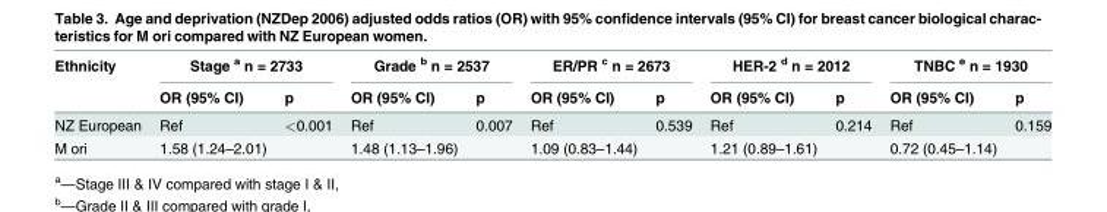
<table><thead><tr><td rowspan="2">Ethnicity</td><td colspan="2">Stage <sup>a</sup> n = 2733</td><td colspan="2">Grade <sup>b</sup> n = 2537</td><td colspan="2">ER/PR <sup>c</sup> n = 2673</td><td colspan="2">HER-2 <sup>d</sup> n = 2012</td><td colspan="2">TNBC <sup>e</sup> n = 1930</td></tr><tr><td>OR (95% CI)</td><td>p</td><td>OR (95% CI)</td><td>p</td><td>OR (95% CI)</td><td>p</td><td>OR (95% CI)</td><td>p</td><td>OR (95% CI)</td><td>p</td></tr></thead><tbody><tr><td>NZ European</td><td>Ref</td><td>&lt;0.001</td><td>Ref</td><td>0.007</td><td>Ref</td><td>0.539</td><td>Ref</td><td>0.214</td><td>Ref</td><td>0.159</td></tr><tr><td>Māori</td><td>1.58 (1.24–2.01)</td><td></td><td>1.48 (1.13–1.96)</td><td></td><td>1.09 (0.83–1.44)</td><td></td><td>1.21 (0.89–1.61)</td><td></td><td>0.72 (0.45–1.14)</td><td></td></tr></tbody></table>